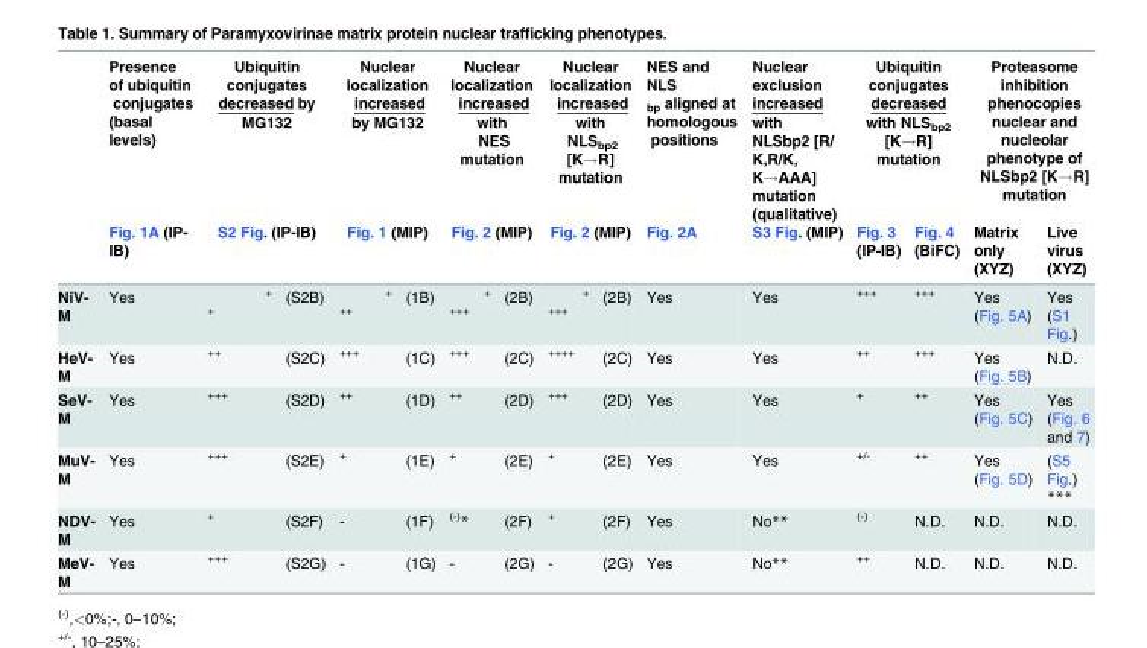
<table><thead><tr><td rowspan="3">NiV- M</td><td rowspan="3">Presence of ubiquitin conjugates (basal levels) Fig. 1A (IP- IB) Yes</td><td rowspan="2" colspan="2">Ubiquitin conjugates decreased by MG132 S2 Fig. (IP-IB)</td><td rowspan="2" colspan="2">Nuclear localization increased by MG132 Fig. 1 (MIP)</td><td rowspan="2" colspan="2">Nuclear localization increased with NES mutation Fig. 2 (MIP)</td><td rowspan="2" colspan="2">Nuclear localization increased with NLS<sub>bp2</sub> [K→R] mutation Fig. 2 (MIP)</td><td rowspan="3">NES and NLS <sub>bp</sub> aligned at homologous positions Fig. 2A Yes</td><td rowspan="3">Nuclear exclusion increased with NLSbp2 [R/ K,R/K, K→AAA] mutation (qualitative) S3 Fig. (MIP) Yes</td><td colspan="2">Ubiquitin conjugates decreased with NLS<sub>bp2</sub> [K→R] mutation</td><td colspan="2">Proteasome inhibition phenocopies nuclear and nucleolar phenotype of NLSbp2 [K→R] mutation</td></tr><tr><td rowspan="2">Fig. 3 (IP-IB) +++</td><td rowspan="2">Fig. 4 (BiFC) +++</td><td rowspan="2">Matrix only (XYZ) Yes (Fig. 5A)</td><td rowspan="2">Live virus (XYZ) Yes (S1 Fig.)</td></tr><tr><td><sup>+ +</sup></td><td>(S2B)</td><td><sup>+ ++</sup></td><td>(1B)</td><td><sup>+ +++</sup></td><td>(2B)</td><td><sup>+ +++</sup></td><td>(2B)</td></tr></thead><tbody><tr><td>HeV- M</td><td>Yes</td><td><sup>++</sup></td><td>(S2C)</td><td><sup>+++</sup></td><td>(1C)</td><td><sup>+++</sup></td><td>(2C)</td><td><sup>++++</sup></td><td>(2C)</td><td>Yes</td><td>Yes</td><td><sup>++</sup></td><td><sup>+++</sup></td><td>Yes (Fig. 5B)</td><td>N.D.</td></tr><tr><td>SeV- M</td><td>Yes</td><td><sup>+++</sup></td><td>(S2D)</td><td><sup>++</sup></td><td>(1D)</td><td><sup>++</sup></td><td>(2D)</td><td><sup>+++</sup></td><td>(2D)</td><td>Yes</td><td>Yes</td><td><sup>+</sup></td><td><sup>++</sup></td><td>Yes (Fig. 5C)</td><td>Yes (Fig. 6 and 7)</td></tr><tr><td>MuV- M</td><td>Yes</td><td><sup>+++</sup></td><td>(S2E)</td><td><sup>+</sup></td><td>(1E)</td><td><sup>+</sup></td><td>(2E)</td><td><sup>+</sup></td><td>(2E)</td><td>Yes</td><td>Yes</td><td><sup>+/-</sup></td><td><sup>++</sup></td><td>Yes (Fig. 5D)</td><td>(S5 Fig.) ***</td></tr><tr><td>NDV- M</td><td>Yes</td><td><sup>+</sup></td><td>(S2F)</td><td>-</td><td>(1F)</td><td><sup>(-)</sup>*</td><td>(2F)</td><td><sup>+</sup></td><td>(2F)</td><td>Yes</td><td>No**</td><td><sup>(-)</sup></td><td>N.D.</td><td>N.D.</td><td>N.D.</td></tr><tr><td>MeV- M</td><td>Yes</td><td><sup>+++</sup></td><td>(S2G)</td><td>-</td><td>(1G)</td><td>-</td><td>(2G)</td><td>-</td><td>(2G)</td><td>Yes</td><td>No**</td><td><sup>++</sup></td><td>N.D.</td><td>N.D.</td><td>N.D.</td></tr></tbody></table>